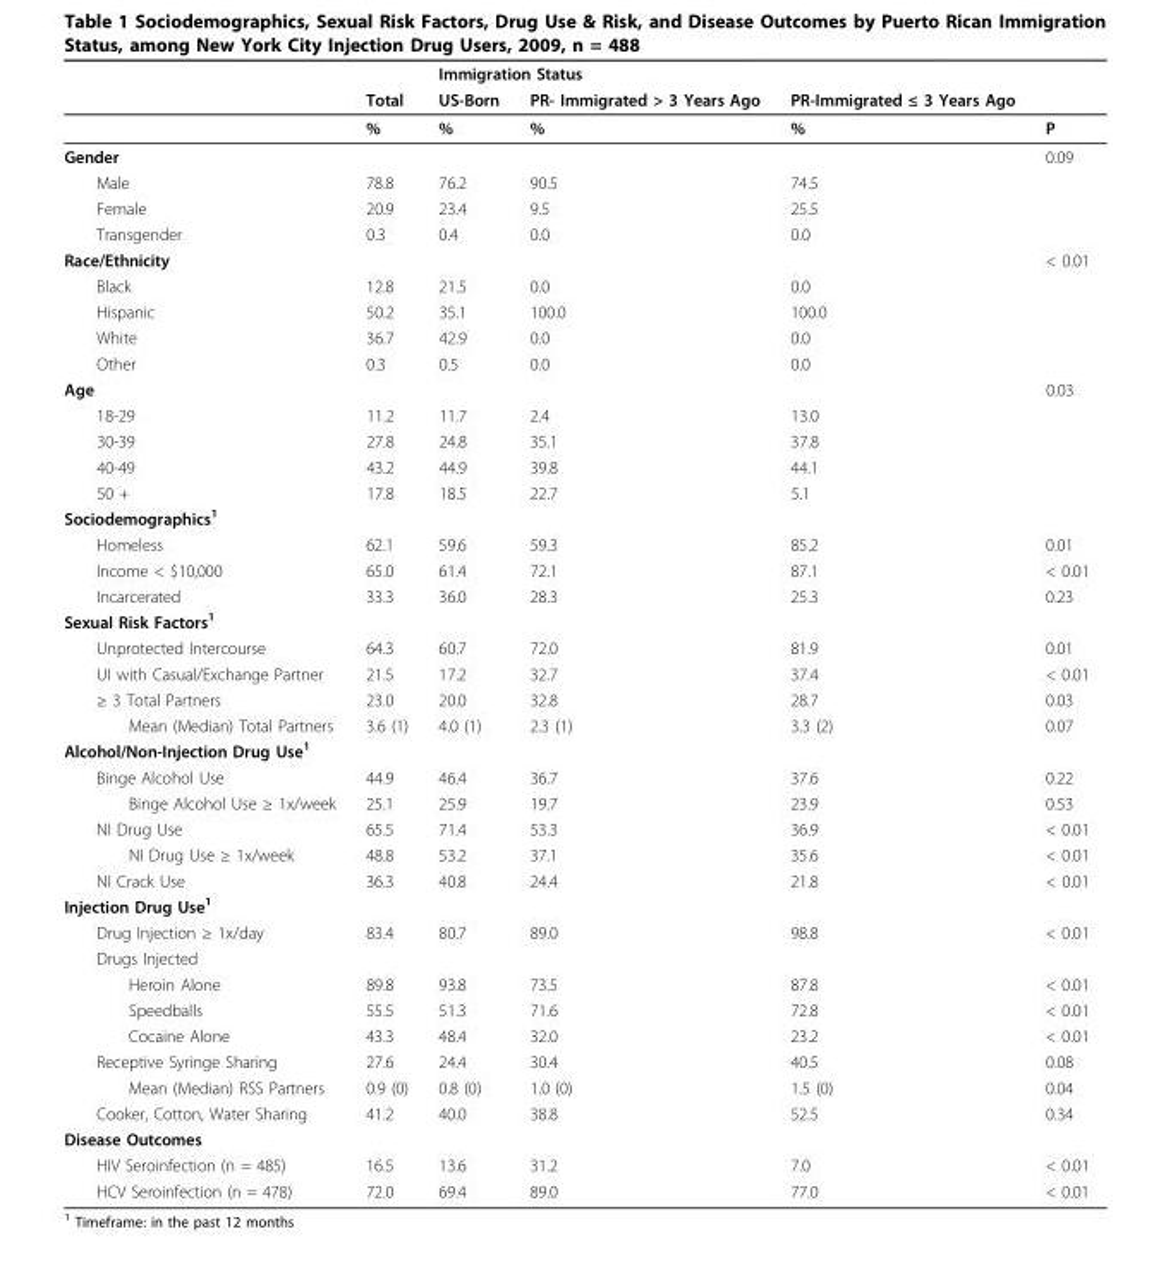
<table><thead><tr><td rowspan="2"></td><td rowspan="2">Total</td><td colspan="4">Immigration Status</td></tr><tr><td>US-Born</td><td>PR- Immigrated &gt; 3 Years Ago</td><td>PR-Immigrated ≤ 3 Years Ago</td><td></td></tr></thead><tbody><tr><td></td><td>%</td><td>%</td><td>%</td><td>%</td><td>P</td></tr><tr><td>Gender</td><td></td><td></td><td></td><td></td><td>0.09</td></tr><tr><td>Male</td><td>78.8</td><td>76.2</td><td>90.5</td><td>74.5</td><td></td></tr><tr><td>Female</td><td>20.9</td><td>23.4</td><td>9.5</td><td>25.5</td><td></td></tr><tr><td>Transgender</td><td>0.3</td><td>0.4</td><td>0.0</td><td>0.0</td><td></td></tr><tr><td>Race/Ethnicity</td><td></td><td></td><td></td><td></td><td>&lt; 0.01</td></tr><tr><td>Black</td><td>12.8</td><td>21.5</td><td>0.0</td><td>0.0</td><td></td></tr><tr><td>Hispanic</td><td>50.2</td><td>35.1</td><td>100.0</td><td>100.0</td><td></td></tr><tr><td>White</td><td>36.7</td><td>42.9</td><td>0.0</td><td>0.0</td><td></td></tr><tr><td>Other</td><td>0.3</td><td>0.5</td><td>0.0</td><td>0.0</td><td></td></tr><tr><td>Age</td><td></td><td></td><td></td><td></td><td>0.03</td></tr><tr><td>18-29</td><td>11.2</td><td>11.7</td><td>2.4</td><td>13.0</td><td></td></tr><tr><td>30-39</td><td>27.8</td><td>24.8</td><td>35.1</td><td>37.8</td><td></td></tr><tr><td>40-49</td><td>43.2</td><td>44.9</td><td>39.8</td><td>44.1</td><td></td></tr><tr><td>50 +</td><td>17.8</td><td>18.5</td><td>22.7</td><td>5.1</td><td></td></tr><tr><td colspan="6">Sociodemographics<sup>1</sup></td></tr><tr><td>Homeless</td><td>62.1</td><td>59.6</td><td>59.3</td><td>85.2</td><td>0.01</td></tr><tr><td>Income &lt; $10,000</td><td>65.0</td><td>61.4</td><td>72.1</td><td>87.1</td><td>&lt; 0.01</td></tr><tr><td>Incarcerated</td><td>33.3</td><td>36.0</td><td>28.3</td><td>25.3</td><td>0.23</td></tr><tr><td colspan="6">Sexual Risk Factors<sup>1</sup></td></tr><tr><td>Unprotected Intercourse</td><td>64.3</td><td>60.7</td><td>72.0</td><td>81.9</td><td>0.01</td></tr><tr><td>UI with Casual/Exchange Partner</td><td>21.5</td><td>17.2</td><td>32.7</td><td>37.4</td><td>&lt; 0.01</td></tr><tr><td>≥ 3 Total Partners</td><td>23.0</td><td>20.0</td><td>32.8</td><td>28.7</td><td>0.03</td></tr><tr><td>Mean (Median) Total Partners</td><td>3.6 (1)</td><td>4.0 (1)</td><td>2.3 (1)</td><td>3.3 (2)</td><td>0.07</td></tr><tr><td colspan="6">Alcohol/Non-Injection Drug Use<sup>1</sup></td></tr><tr><td>Binge Alcohol Use</td><td>44.9</td><td>46.4</td><td>36.7</td><td>37.6</td><td>0.22</td></tr><tr><td>Binge Alcohol Use ≥ 1x/week</td><td>25.1</td><td>25.9</td><td>19.7</td><td>23.9</td><td>0.53</td></tr><tr><td>NI Drug Use</td><td>65.5</td><td>71.4</td><td>53.3</td><td>36.9</td><td>&lt; 0.01</td></tr><tr><td>NI Drug Use ≥ 1x/week</td><td>48.8</td><td>53.2</td><td>37.1</td><td>35.6</td><td>&lt; 0.01</td></tr><tr><td>NI Crack Use</td><td>36.3</td><td>40.8</td><td>24.4</td><td>21.8</td><td>&lt; 0.01</td></tr><tr><td colspan="6">Injection Drug Use<sup>1</sup></td></tr><tr><td>Drug Injection ≥ 1x/day</td><td>83.4</td><td>80.7</td><td>89.0</td><td>98.8</td><td>&lt; 0.01</td></tr><tr><td colspan="6">Drugs Injected</td></tr><tr><td>Heroin Alone</td><td>89.8</td><td>93.8</td><td>73.5</td><td>87.8</td><td>&lt; 0.01</td></tr><tr><td>Speedballs</td><td>55.5</td><td>51.3</td><td>71.6</td><td>72.8</td><td>&lt; 0.01</td></tr><tr><td>Cocaine Alone</td><td>43.3</td><td>48.4</td><td>32.0</td><td>23.2</td><td>&lt; 0.01</td></tr><tr><td>Receptive Syringe Sharing</td><td>27.6</td><td>24.4</td><td>30.4</td><td>40.5</td><td>0.08</td></tr><tr><td>Mean (Median) RSS Partners</td><td>0.9 (0)</td><td>0.8 (0)</td><td>1.0 (0)</td><td>1.5 (0)</td><td>0.04</td></tr><tr><td>Cooker, Cotton, Water Sharing</td><td>41.2</td><td>40.0</td><td>38.8</td><td>52.5</td><td>0.34</td></tr><tr><td colspan="6">Disease Outcomes</td></tr><tr><td>HIV Seroinfection (n = 485)</td><td>16.5</td><td>13.6</td><td>31.2</td><td>7.0</td><td>&lt; 0.01</td></tr><tr><td>HCV Seroinfection (n = 478)</td><td>72.0</td><td>69.4</td><td>89.0</td><td>77.0</td><td>&lt; 0.01</td></tr></tbody></table>